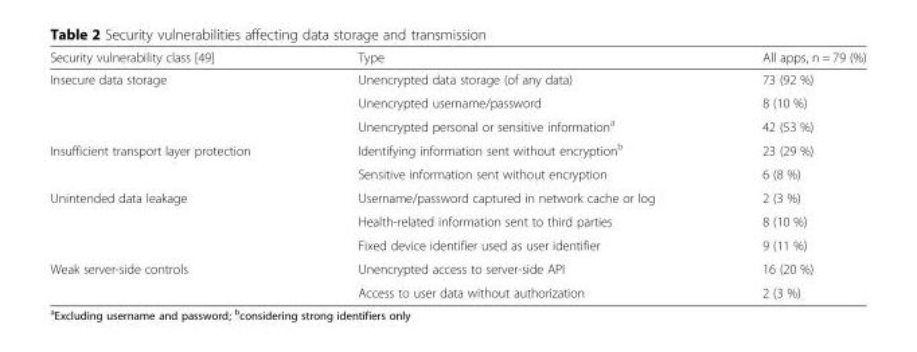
<table><thead><tr><td>Security vulnerability class [49]</td><td>Type</td><td>All apps, n = 79 (%)</td></tr></thead><tbody><tr><td rowspan="3">Insecure data storage</td><td>Unencrypted data storage (of any data)</td><td>73 (92 %)</td></tr><tr><td>Unencrypted username/password</td><td>8 (10 %)</td></tr><tr><td>Unencrypted personal or sensitive information<sup>a</sup></td><td>42 (53 %)</td></tr><tr><td rowspan="2">Insufficient transport layer protection</td><td>Identifying information sent without encryption<sup>b</sup></td><td>23 (29 %)</td></tr><tr><td>Sensitive information sent without encryption</td><td>6 (8 %)</td></tr><tr><td rowspan="3">Unintended data leakage</td><td>Username/password captured in network cache or log</td><td>2 (3 %)</td></tr><tr><td>Health-related information sent to third parties</td><td>8 (10 %)</td></tr><tr><td>Fixed device identifier used as user identifier</td><td>9 (11 %)</td></tr><tr><td rowspan="2">Weak server-side controls</td><td>Unencrypted access to server-side API</td><td>16 (20 %)</td></tr><tr><td>Access to user data without authorization</td><td>2 (3 %)</td></tr></tbody></table>